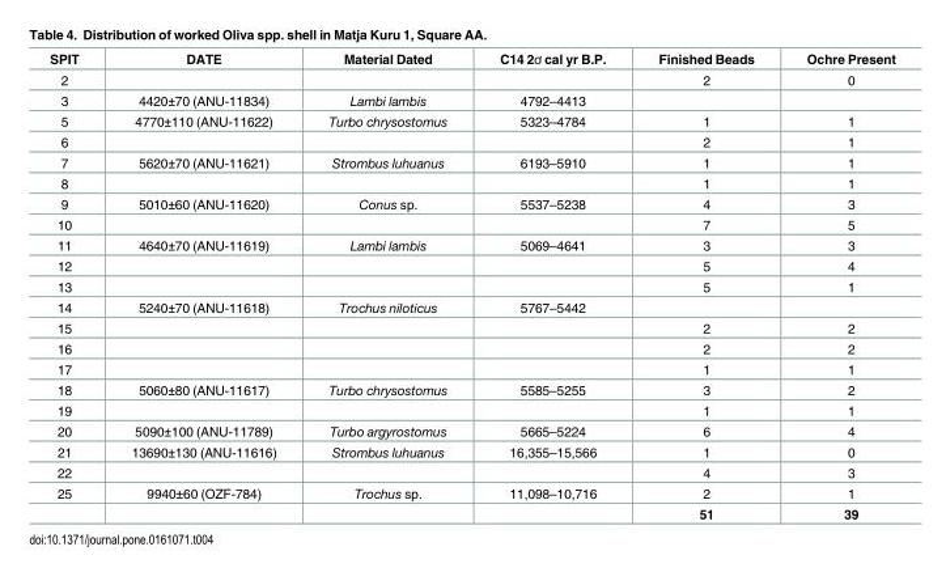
<table><thead><tr><td>SPIT</td><td>DATE</td><td>Material Dated</td><td>C14 2ơ cal yr B.P.</td><td>Finished Beads</td><td>Ochre Present</td></tr></thead><tbody><tr><td>2</td><td></td><td></td><td></td><td>2</td><td>0</td></tr><tr><td>3</td><td>4420±70 (ANU-11834)</td><td>Lambi lambis</td><td>4792–4413</td><td></td><td></td></tr><tr><td>5</td><td>4770±110 (ANU-11622)</td><td>Turbo chrysostomus</td><td>5323–4784</td><td>1</td><td>1</td></tr><tr><td>6</td><td></td><td></td><td></td><td>2</td><td>1</td></tr><tr><td>7</td><td>5620±70 (ANU-11621)</td><td>Strombus luhuanus</td><td>6193–5910</td><td>1</td><td>1</td></tr><tr><td>8</td><td></td><td></td><td></td><td>1</td><td>1</td></tr><tr><td>9</td><td>5010±60 (ANU-11620)</td><td>Conus sp.</td><td>5537–5238</td><td>4</td><td>3</td></tr><tr><td>10</td><td></td><td></td><td></td><td>7</td><td>5</td></tr><tr><td>11</td><td>4640±70 (ANU-11619)</td><td>Lambi lambis</td><td>5069–4641</td><td>3</td><td>3</td></tr><tr><td>12</td><td></td><td></td><td></td><td>5</td><td>4</td></tr><tr><td>13</td><td></td><td></td><td></td><td>5</td><td>1</td></tr><tr><td>14</td><td>5240±70 (ANU-11618)</td><td>Trochus niloticus</td><td>5767–5442</td><td></td><td></td></tr><tr><td>15</td><td></td><td></td><td></td><td>2</td><td>2</td></tr><tr><td>16</td><td></td><td></td><td></td><td>2</td><td>2</td></tr><tr><td>17</td><td></td><td></td><td></td><td>1</td><td>1</td></tr><tr><td>18</td><td>5060±80 (ANU-11617)</td><td>Turbo chrysostomus</td><td>5585–5255</td><td>3</td><td>2</td></tr><tr><td>19</td><td></td><td></td><td></td><td>1</td><td>1</td></tr><tr><td>20</td><td>5090±100 (ANU-11789)</td><td>Turbo argyrostomus</td><td>5665–5224</td><td>6</td><td>4</td></tr><tr><td>21</td><td>13690±130 (ANU-11616)</td><td>Strombus luhuanus</td><td>16,355–15,566</td><td>1</td><td>0</td></tr><tr><td>22</td><td></td><td></td><td></td><td>4</td><td>3</td></tr><tr><td rowspan="2">25</td><td>9940±60 (OZF-784)</td><td>Trochus sp.</td><td>11,098–10,716</td><td>2</td><td>1</td></tr><tr><td></td><td></td><td></td><td>51</td><td>39</td></tr></tbody></table>